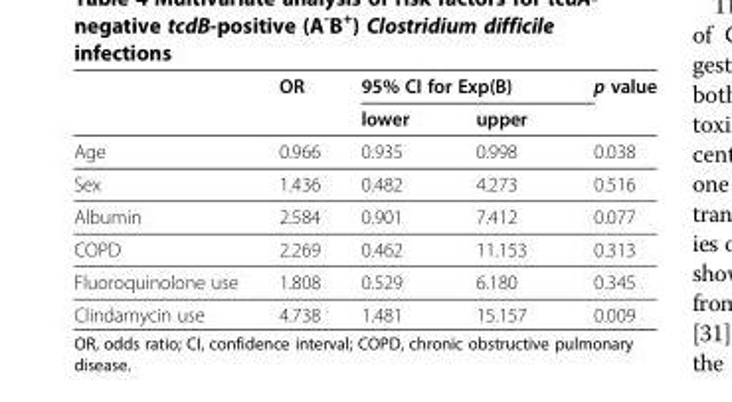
<table><thead><tr><td rowspan="2"></td><td rowspan="2">OR</td><td colspan="2">95% CI for Exp(B)</td><td rowspan="2">p value</td></tr><tr><td>lower</td><td>upper</td></tr></thead><tbody><tr><td>Age</td><td>0.966</td><td>0.935</td><td>0.998</td><td>0.038</td></tr><tr><td>Sex</td><td>1.436</td><td>0.482</td><td>4.273</td><td>0.516</td></tr><tr><td>Albumin</td><td>2.584</td><td>0.901</td><td>7.412</td><td>0.077</td></tr><tr><td>COPD</td><td>2.269</td><td>0.462</td><td>11.153</td><td>0.313</td></tr><tr><td>Fluoroquinolone use</td><td>1.808</td><td>0.529</td><td>6.180</td><td>0.345</td></tr><tr><td>Clindamycin use</td><td>4.738</td><td>1.481</td><td>15.157</td><td>0.009</td></tr></tbody></table>